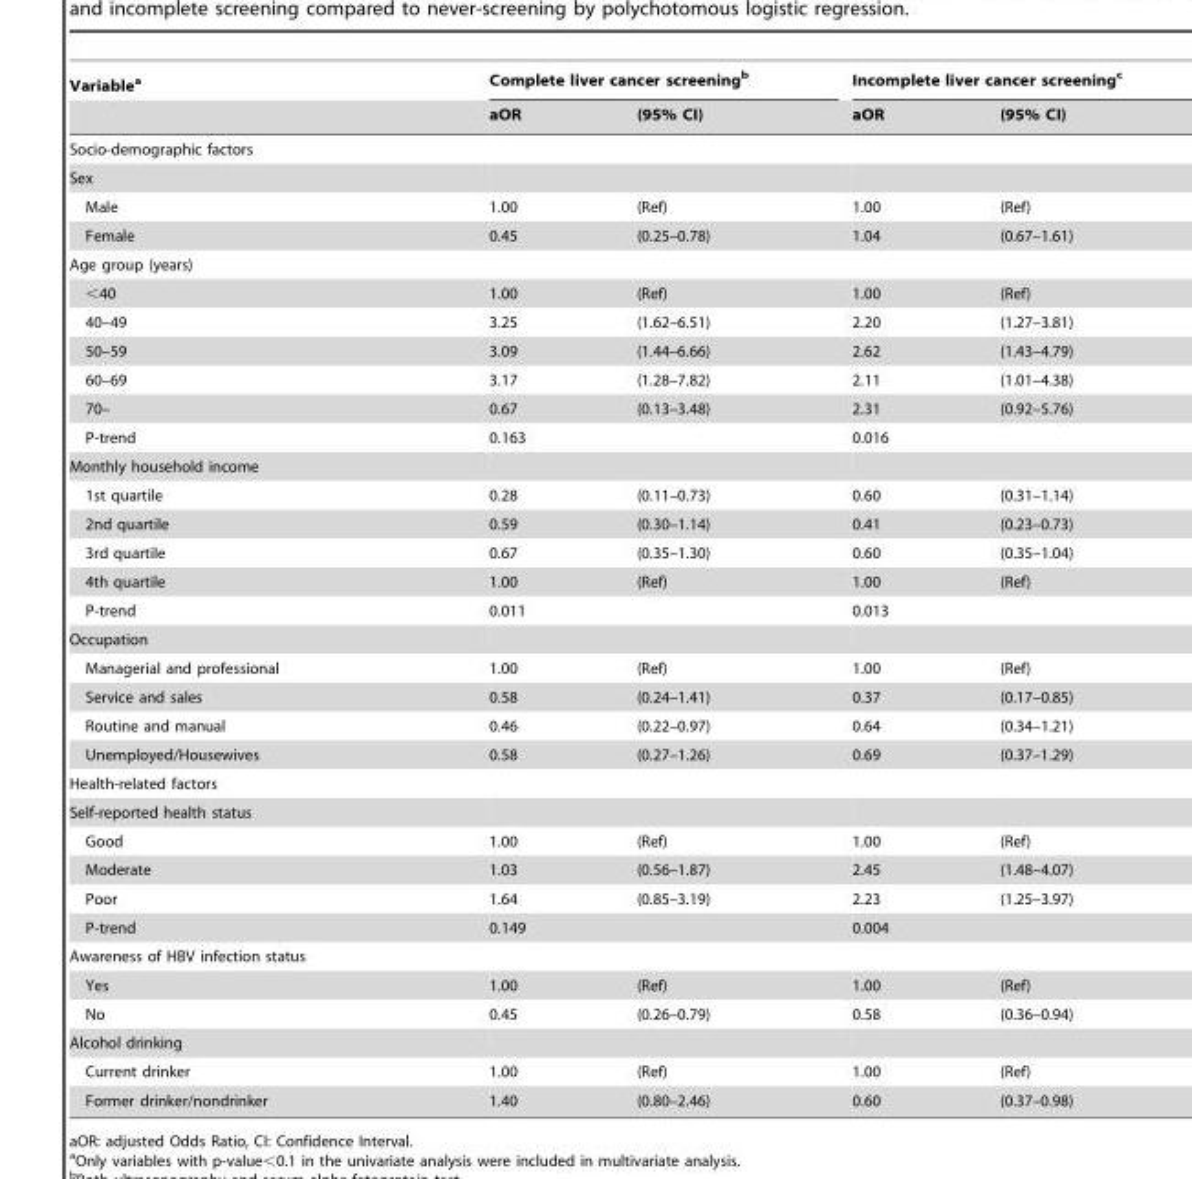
<table><thead><tr><td rowspan="2">Variable<sup>a</sup></td><td colspan="2">Complete liver cancer screening<sup>b</sup></td><td colspan="2">Incomplete liver cancer screening<sup>c</sup></td></tr><tr><td>aOR</td><td>(95% CI)</td><td>aOR</td><td>(95% CI)</td></tr></thead><tbody><tr><td colspan="5">Socio-demographic factors</td></tr><tr><td colspan="5">Sex</td></tr><tr><td>Male</td><td>1.00</td><td>(Ref)</td><td>1.00</td><td>(Ref)</td></tr><tr><td>Female</td><td>0.45</td><td>(0.25–0.78)</td><td>1.04</td><td>(0.67–1.61)</td></tr><tr><td colspan="5">Age group (years)</td></tr><tr><td>&lt;40</td><td>1.00</td><td>(Ref)</td><td>1.00</td><td>(Ref)</td></tr><tr><td>40–49</td><td>3.25</td><td>(1.62–6.51)</td><td>2.20</td><td>(1.27–3.81)</td></tr><tr><td>50–59</td><td>3.09</td><td>(1.44–6.66)</td><td>2.62</td><td>(1.43–4.79)</td></tr><tr><td>60–69</td><td>3.17</td><td>(1.28–7.82)</td><td>2.11</td><td>(1.01–4.38)</td></tr><tr><td>70–</td><td>0.67</td><td>(0.13–3.48)</td><td>2.31</td><td>(0.92–5.76)</td></tr><tr><td>P-trend</td><td>0.163</td><td></td><td>0.016</td><td></td></tr><tr><td colspan="5">Monthly household income</td></tr><tr><td>1st quartile</td><td>0.28</td><td>(0.11–0.73)</td><td>0.60</td><td>(0.31–1.14)</td></tr><tr><td>2nd quartile</td><td>0.59</td><td>(0.30–1.14)</td><td>0.41</td><td>(0.23–0.73)</td></tr><tr><td>3rd quartile</td><td>0.67</td><td>(0.35–1.30)</td><td>0.60</td><td>(0.35–1.04)</td></tr><tr><td>4th quartile</td><td>1.00</td><td>(Ref)</td><td>1.00</td><td>(Ref)</td></tr><tr><td>P-trend</td><td>0.011</td><td></td><td>0.013</td><td></td></tr><tr><td colspan="5">Occupation</td></tr><tr><td>Managerial and professional</td><td>1.00</td><td>(Ref)</td><td>1.00</td><td>(Ref)</td></tr><tr><td>Service and sales</td><td>0.58</td><td>(0.24–1.41)</td><td>0.37</td><td>(0.17–0.85)</td></tr><tr><td>Routine and manual</td><td>0.46</td><td>(0.22–0.97)</td><td>0.64</td><td>(0.34–1.21)</td></tr><tr><td>Unemployed/Housewives</td><td>0.58</td><td>(0.27–1.26)</td><td>0.69</td><td>(0.37–1.29)</td></tr><tr><td colspan="5">Health-related factors</td></tr><tr><td colspan="5">Self-reported health status</td></tr><tr><td>Good</td><td>1.00</td><td>(Ref)</td><td>1.00</td><td>(Ref)</td></tr><tr><td>Moderate</td><td>1.03</td><td>(0.56–1.87)</td><td>2.45</td><td>(1.48–4.07)</td></tr><tr><td>Poor</td><td>1.64</td><td>(0.85–3.19)</td><td>2.23</td><td>(1.25–3.97)</td></tr><tr><td>P-trend</td><td>0.149</td><td></td><td>0.004</td><td></td></tr><tr><td colspan="5">Awareness of HBV infection status</td></tr><tr><td>Yes</td><td>1.00</td><td>(Ref)</td><td>1.00</td><td>(Ref)</td></tr><tr><td>No</td><td>0.45</td><td>(0.26–0.79)</td><td>0.58</td><td>(0.36–0.94)</td></tr><tr><td colspan="5">Alcohol drinking</td></tr><tr><td>Current drinker</td><td>1.00</td><td>(Ref)</td><td>1.00</td><td>(Ref)</td></tr><tr><td>Former drinker/nondrinker</td><td>1.40</td><td>(0.80–2.46)</td><td>0.60</td><td>(0.37–0.98)</td></tr></tbody></table>